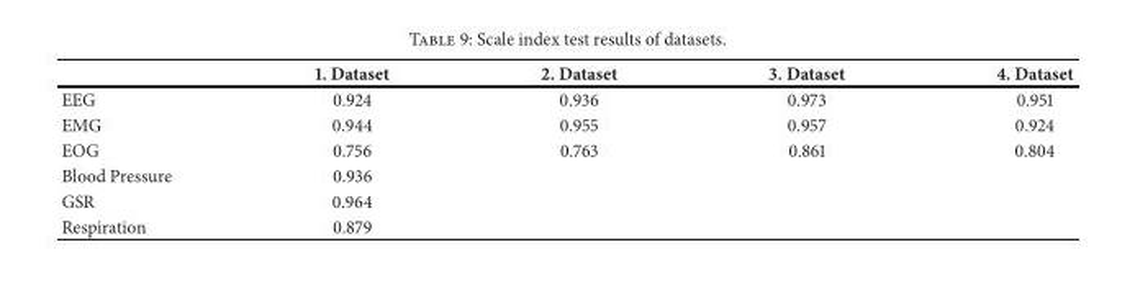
<table><thead><tr><td></td><td>1. Dataset</td><td>2. Dataset</td><td>3. Dataset</td><td>4. Dataset</td></tr></thead><tbody><tr><td>EEG</td><td>0.924</td><td>0.936</td><td>0.973</td><td>0.951</td></tr><tr><td>EMG</td><td>0.944</td><td>0.955</td><td>0.957</td><td>0.924</td></tr><tr><td>EOG</td><td>0.756</td><td>0.763</td><td>0.861</td><td>0.804</td></tr><tr><td>Blood Pressure</td><td>0.936</td><td></td><td></td><td></td></tr><tr><td>GSR</td><td>0.964</td><td></td><td></td><td></td></tr><tr><td>Respiration</td><td>0.879</td><td></td><td></td><td></td></tr></tbody></table>